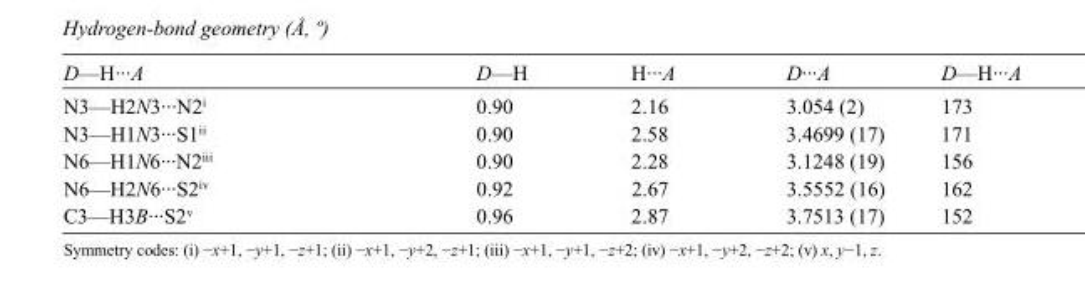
<table><tbody><tr><td>D—H···A</td><td>D—H</td><td>H···A</td><td>D···A</td><td>D—H···A</td></tr><tr><td>N3—H2N3···N2<sup>i</sup></td><td>0.90</td><td>2.16</td><td>3.054 (2)</td><td>173</td></tr><tr><td>N3—H1N3···S1<sup>ii</sup></td><td>0.90</td><td>2.58</td><td>3.4699 (17)</td><td>171</td></tr><tr><td>N6—H1N6···N2<sup>iii</sup></td><td>0.90</td><td>2.28</td><td>3.1248 (19)</td><td>156</td></tr><tr><td>N6—H2N6···S2<sup>iv</sup></td><td>0.92</td><td>2.67</td><td>3.5552 (16)</td><td>162</td></tr><tr><td>C3—H3B···S2<sup>v</sup></td><td>0.96</td><td>2.87</td><td>3.7513 (17)</td><td>152</td></tr></tbody></table>